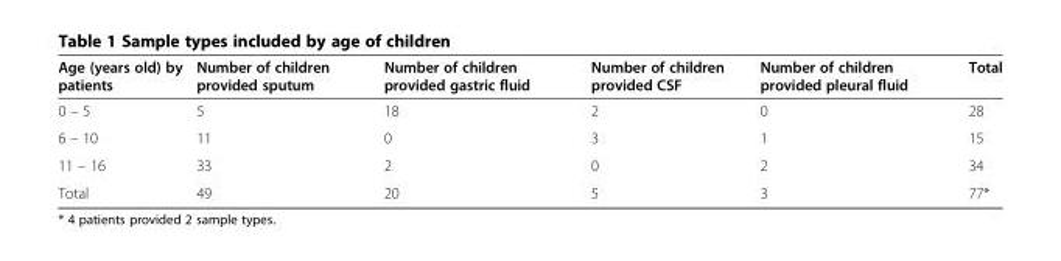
<table><thead><tr><td>Age (years old) by patients</td><td>Number of children provided sputum</td><td>Number of children provided gastric fluid</td><td>Number of children provided CSF</td><td>Number of children provided pleural fluid</td><td>Total</td></tr></thead><tbody><tr><td>0 – 5</td><td>5</td><td>18</td><td>2</td><td>0</td><td>28</td></tr><tr><td>6 – 10</td><td>11</td><td>0</td><td>3</td><td>1</td><td>15</td></tr><tr><td>11 – 16</td><td>33</td><td>2</td><td>0</td><td>2</td><td>34</td></tr><tr><td>Total</td><td>49</td><td>20</td><td>5</td><td>3</td><td>77*</td></tr></tbody></table>